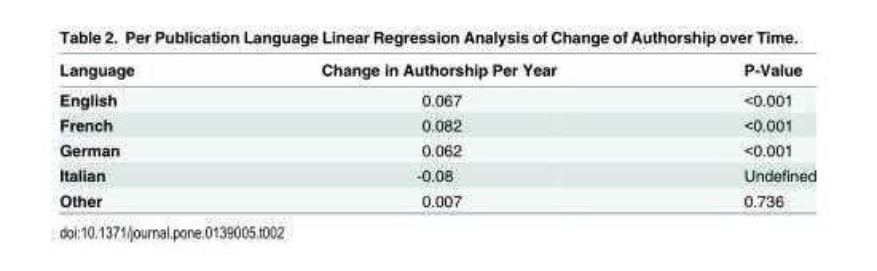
<table><thead><tr><td>Language</td><td>Change in Authorship Per Year</td><td>P-Value</td></tr></thead><tbody><tr><td>English</td><td>0.067</td><td>&lt;0.001</td></tr><tr><td>French</td><td>0.082</td><td>&lt;0.001</td></tr><tr><td>German</td><td>0.062</td><td>&lt;0.001</td></tr><tr><td>Italian</td><td>-0.08</td><td>Undefined</td></tr><tr><td>Other</td><td>0.007</td><td>0.736</td></tr></tbody></table>